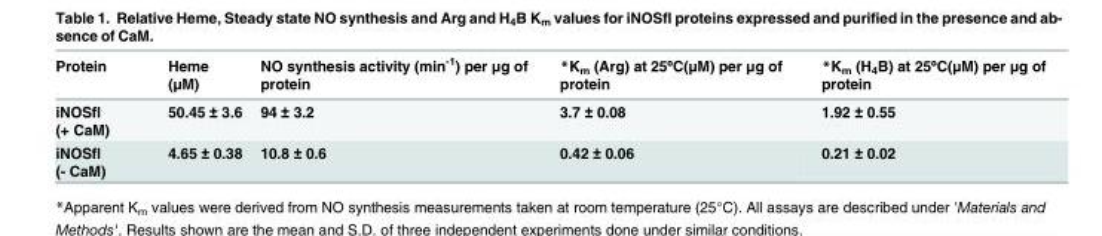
<table><thead><tr><td>Protein</td><td>Heme (μM)</td><td>NO synthesis activity (min<sup>-1</sup>) per μg of protein</td><td>*K<sub>m</sub> (Arg) at 25ºC(μM) per μg of protein</td><td>*K<sub>m</sub> (H<sub>4</sub>B) at 25ºC(μM) per μg of protein</td></tr></thead><tbody><tr><td>iNOSfl (+ CaM)</td><td>50.45 ± 3.6</td><td>94 ± 3.2</td><td>3.7 ± 0.08</td><td>1.92 ± 0.55</td></tr><tr><td>iNOSfl (- CaM)</td><td>4.65 ± 0.38</td><td>10.8 ± 0.6</td><td>0.42 ± 0.06</td><td>0.21 ± 0.02</td></tr></tbody></table>